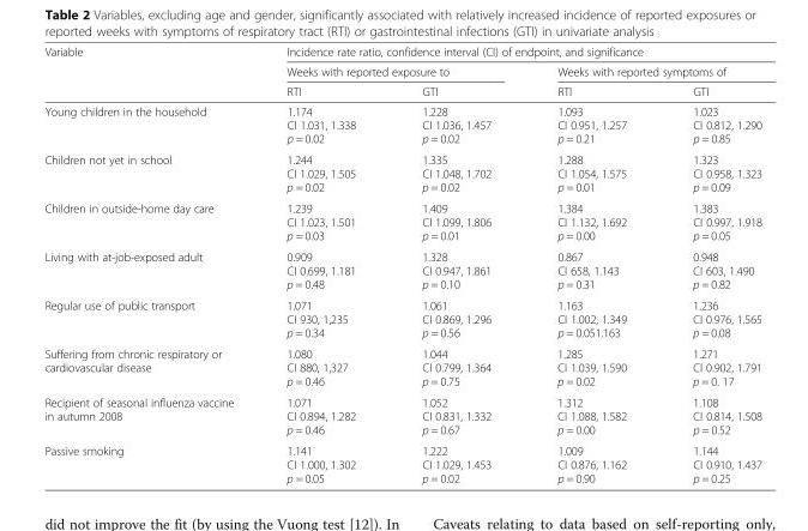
<table><thead><tr><td rowspan="3">Variable</td><td colspan="4">Incidence rate ratio, confidence interval (CI) of endpoint, and significance</td></tr><tr><td colspan="2">Weeks with reported exposure to</td><td colspan="2">Weeks with reported symptoms of</td></tr><tr><td>RTI</td><td>GTI</td><td>RTI</td><td>GTI</td></tr></thead><tbody><tr><td>Young children in the household</td><td>1.174 CI 1.031, 1.338 p = 0.02</td><td>1.228 CI 1.036, 1.457 p = 0.02</td><td>1.093 CI 0.951, 1.257 p = 0.21</td><td>1.023 CI 0.812, 1.290 p = 0.85</td></tr><tr><td>Children not yet in school</td><td>1.244 CI 1.029, 1.505 p = 0.02</td><td>1.335 CI 1.048, 1.702 p = 0.02</td><td>1.288 CI 1.054, 1.575 p = 0.01</td><td>1.323 CI 0.958, 1.323 p = 0.09</td></tr><tr><td>Children in outside-home day care</td><td>1.239 CI 1.023, 1.501 p = 0.03</td><td>1.409 CI 1.099, 1.806 p = 0.01</td><td>1.384 CI 1.132, 1.692 p = 0.00</td><td>1.383 CI 0.997, 1.918 p = 0.05</td></tr><tr><td>Living with at-job-exposed adult</td><td>0.909 CI 0.699, 1.181 p = 0.48</td><td>1.328 CI 0.947, 1.861 p = 0.10</td><td>0.867 CI 658, 1.143 p = 0.31</td><td>0.948 CI 603, 1.490 p = 0.82</td></tr><tr><td>Regular use of public transport</td><td>1.071 CI 930, 1,235 p = 0.34</td><td>1.061 CI 0.869, 1.296 p = 0.56</td><td>1.163 CI 1.002, 1.349 p = 0.051.163</td><td>1.236 CI 0.976, 1.565 p = 0.08</td></tr><tr><td>Suffering from chronic respiratory or cardiovascular disease</td><td>1.080 CI 880, 1,327 p = 0.46</td><td>1.044 CI 0.799, 1.364 p = 0.75</td><td>1.285 CI 1.039, 1.590 p = 0.02</td><td>1.271 CI 0.902, 1.791 p = 0. 17</td></tr><tr><td>Recipient of seasonal influenza vaccine in autumn 2008</td><td>1.071 CI 0.894, 1.282 p = 0.46</td><td>1.052 CI 0.831, 1.332 p = 0.67</td><td>1.312 CI 1.088, 1.582 p = 0.00</td><td>1.108 CI 0.814, 1.508 p = 0.52</td></tr><tr><td>Passive smoking</td><td>1.141 CI 1.000, 1.302 p = 0.05</td><td>1.222 CI 1.029, 1.453 p = 0.02</td><td>1.009 CI 0.876, 1.162 p = 0.90</td><td>1.144 CI 0.910, 1.437 p = 0.25</td></tr></tbody></table>